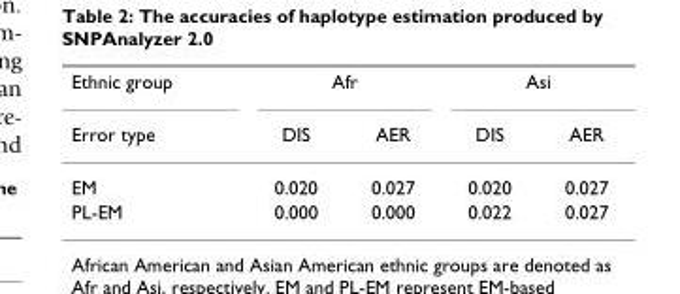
<table><thead><tr><td rowspan="2">Ethnic group Error type</td><td colspan="2">Afr</td><td colspan="2">Asi</td></tr><tr><td>DIS</td><td>AER</td><td>DIS</td><td>AER</td></tr></thead><tbody><tr><td>EM</td><td>0.020</td><td>0.027</td><td>0.020</td><td>0.027</td></tr><tr><td>PL-EM</td><td>0.000</td><td>0.000</td><td>0.022</td><td>0.027</td></tr></tbody></table>